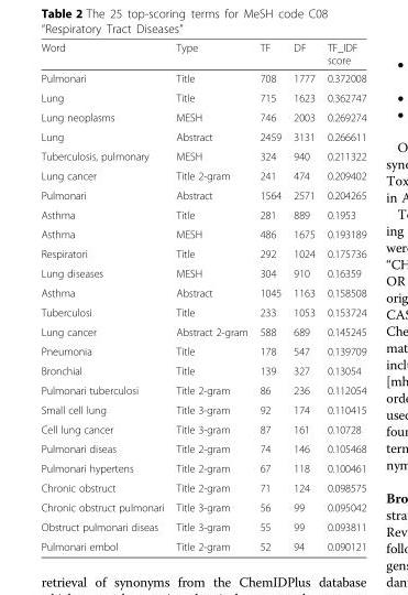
<table><thead><tr><td>Word</td><td>Type</td><td>TF</td><td>DF</td><td>TF_IDF score</td></tr></thead><tbody><tr><td>Pulmonari</td><td>Title</td><td>708</td><td>1777</td><td>0.372008</td></tr><tr><td>Lung</td><td>Title</td><td>715</td><td>1623</td><td>0.362747</td></tr><tr><td>Lung neoplasms</td><td>MESH</td><td>746</td><td>2003</td><td>0.269274</td></tr><tr><td>Lung</td><td>Abstract</td><td>2459</td><td>3131</td><td>0.266611</td></tr><tr><td>Tuberculosis, pulmonary</td><td>MESH</td><td>324</td><td>940</td><td>0.211322</td></tr><tr><td>Lung cancer</td><td>Title 2-gram</td><td>241</td><td>474</td><td>0.209402</td></tr><tr><td>Pulmonari</td><td>Abstract</td><td>1564</td><td>2571</td><td>0.204265</td></tr><tr><td>Asthma</td><td>Title</td><td>281</td><td>889</td><td>0.1953</td></tr><tr><td>Asthma</td><td>MESH</td><td>486</td><td>1675</td><td>0.193189</td></tr><tr><td>Respiratori</td><td>Title</td><td>292</td><td>1024</td><td>0.175736</td></tr><tr><td>Lung diseases</td><td>MESH</td><td>304</td><td>910</td><td>0.16359</td></tr><tr><td>Asthma</td><td>Abstract</td><td>1045</td><td>1163</td><td>0.158508</td></tr><tr><td>Tuberculosi</td><td>Title</td><td>233</td><td>1053</td><td>0.153724</td></tr><tr><td>Lung cancer</td><td>Abstract 2-gram</td><td>588</td><td>689</td><td>0.145245</td></tr><tr><td>Pneumonia</td><td>Title</td><td>178</td><td>547</td><td>0.139709</td></tr><tr><td>Bronchial</td><td>Title</td><td>139</td><td>327</td><td>0.13054</td></tr><tr><td>Pulmonari tuberculosi</td><td>Title 2-gram</td><td>86</td><td>236</td><td>0.112054</td></tr><tr><td>Small cell lung</td><td>Title 3-gram</td><td>92</td><td>174</td><td>0.110415</td></tr><tr><td>Cell lung cancer</td><td>Title 3-gram</td><td>87</td><td>161</td><td>0.10728</td></tr><tr><td>Pulmonari diseas</td><td>Title 2-gram</td><td>74</td><td>146</td><td>0.105468</td></tr><tr><td>Pulmonari hypertens</td><td>Title 2-gram</td><td>67</td><td>118</td><td>0.100461</td></tr><tr><td>Chronic obstruct</td><td>Title 2-gram</td><td>71</td><td>124</td><td>0.098575</td></tr><tr><td>Chronic obstruct pulmonari</td><td>Title 3-gram</td><td>56</td><td>99</td><td>0.095042</td></tr><tr><td>Obstruct pulmonari diseas</td><td>Title 3-gram</td><td>55</td><td>99</td><td>0.093811</td></tr><tr><td>Pulmonari embol</td><td>Title 2-gram</td><td>52</td><td>94</td><td>0.090121</td></tr></tbody></table>